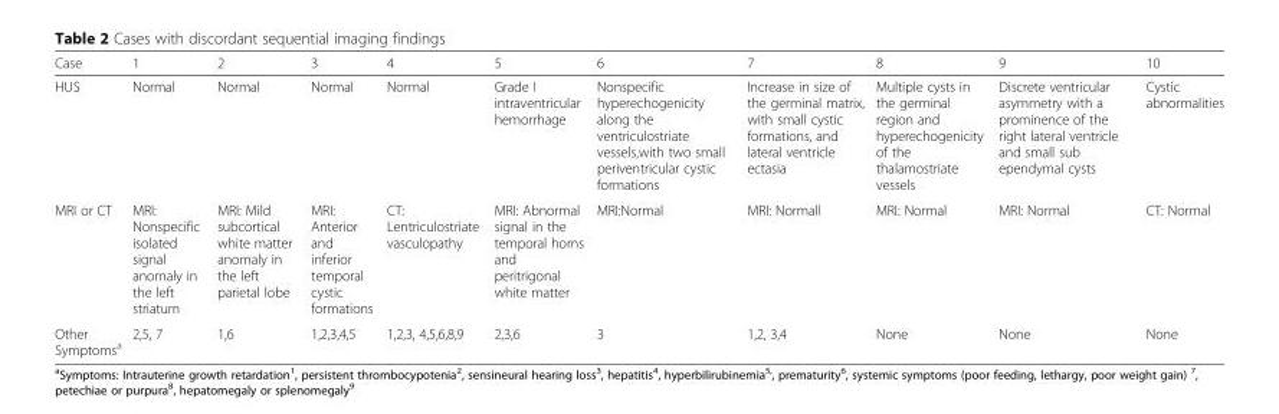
<table><thead><tr><td>Case</td><td>1</td><td>2</td><td>3</td><td>4</td><td>5</td><td>6</td><td>7</td><td>8</td><td>9</td><td>10</td></tr></thead><tbody><tr><td>HUS</td><td>Normal</td><td>Normal</td><td>Normal</td><td>Normal</td><td>Grade I intraventricular hemorrhage</td><td>Nonspecific hyperechogenicity along the ventriculostriate vessels,with two small periventricular cystic formations</td><td>Increase in size of the germinal matrix, with small cystic formations, and lateral ventricle ectasia</td><td>Multiple cysts in the germinal region and hyperechogenicity of the thalamostriate vessels</td><td>Discrete ventricular asymmetry with a prominence of the right lateral ventricle and small sub ependymal cysts</td><td>Cystic abnormalities</td></tr><tr><td>MRI or CT</td><td>MRI: Nonspecific isolated signal anomaly in the left striatum</td><td>MRI: Mild subcortical white matter anomaly in the left parietal lobe</td><td>MRI: Anterior and inferior temporal cystic formations</td><td>CT: Lentriculostriate vasculopathy</td><td>MRI: Abnormal signal in the temporal horns and peritrigonal white matter</td><td>MRI:Normal</td><td>MRI: Normall</td><td>MRI: Normal</td><td>MRI: Normal</td><td>CT: Normal</td></tr><tr><td>Other Symptoms<sup>a</sup></td><td>2,5, 7</td><td>1,6</td><td>1,2,3,4,5</td><td>1,2,3, 4,5,6,8,9</td><td>2,3,6</td><td>3</td><td>1,2, 3,4</td><td>None</td><td>None</td><td>None</td></tr></tbody></table>